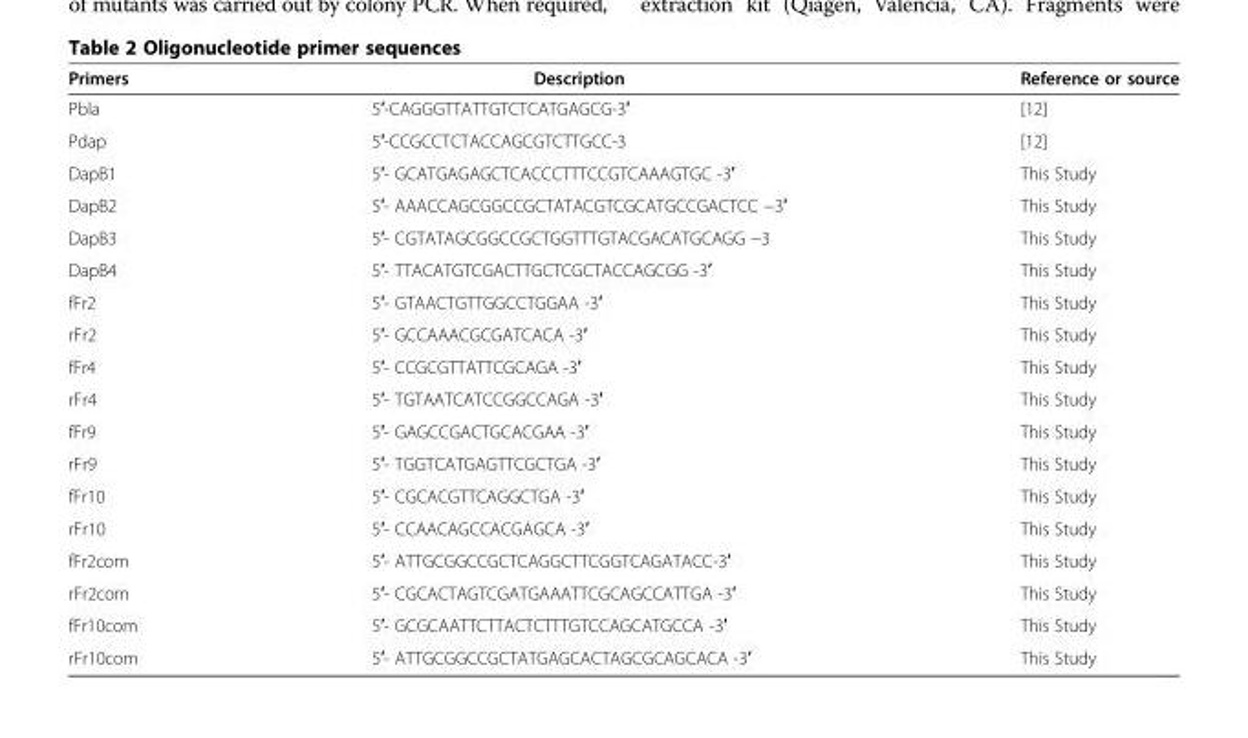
<table><thead><tr><td>Primers</td><td>Description</td><td>Reference or source</td></tr></thead><tbody><tr><td>Pbla</td><td>5′-CAGGGTTATTGTCTCATGAGCG-3′</td><td>[12]</td></tr><tr><td>Pdap</td><td>5′-CCGCCTCTACCAGCGTCTTGCC-3</td><td>[12]</td></tr><tr><td>DapB1</td><td>5′- GCATGAGAGCTCACCCTTTCCGTCAAAGTGC -3′</td><td>This Study</td></tr><tr><td>DapB2</td><td>5′- AAACCAGCGGCCGCTATACGTCGCATGCCGACTCC −3′</td><td>This Study</td></tr><tr><td>DapB3</td><td>5′- CGTATAGCGGCCGCTGGTTTGTACGACATGCAGG −3</td><td>This Study</td></tr><tr><td>DapB4</td><td>5′- TTACATGTCGACTTGCTCGCTACCAGCGG -3′</td><td>This Study</td></tr><tr><td>fFr2</td><td>5′- GTAACTGTTGGCCTGGAA -3′</td><td>This Study</td></tr><tr><td>rFr2</td><td>5′- GCCAAACGCGATCACA -3′</td><td>This Study</td></tr><tr><td>fFr4</td><td>5′- CCGCGTTATTCGCAGA -3′</td><td>This Study</td></tr><tr><td>rFr4</td><td>5′- TGTAATCATCCGGCCAGA -3′</td><td>This Study</td></tr><tr><td>fFr9</td><td>5′- GAGCCGACTGCACGAA -3′</td><td>This Study</td></tr><tr><td>rFr9</td><td>5′- TGGTCATGAGTTCGCTGA -3′</td><td>This Study</td></tr><tr><td>fFr10</td><td>5′- CGCACGTTCAGGCTGA -3′</td><td>This Study</td></tr><tr><td>rFr10</td><td>5′- CCAACAGCCACGAGCA -3′</td><td>This Study</td></tr><tr><td>fFr2com</td><td>5′- ATTGCGGCCGCTCAGGCTTCGGTCAGATACC-3′</td><td>This Study</td></tr><tr><td>rFr2com</td><td>5′- CGCACTAGTCGATGAAATTCGCAGCCATTGA -3′</td><td>This Study</td></tr><tr><td>fFr10com</td><td>5′- GCGCAATTCTTACTCTTTGTCCAGCATGCCA -3′</td><td>This Study</td></tr><tr><td>rFr10com</td><td>5′- ATTGCGGCCGCTATGAGCACTAGCGCAGCACA -3′</td><td>This Study</td></tr></tbody></table>